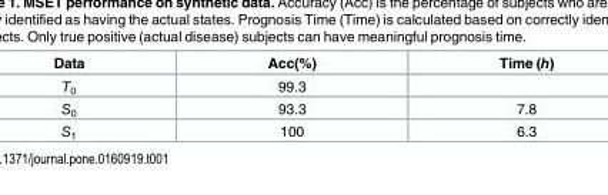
<table><thead><tr><td>Data</td><td>Acc(%)</td><td>Time (h)</td></tr></thead><tbody><tr><td>T<sub>0</sub></td><td>99.3</td><td></td></tr><tr><td>S<sub>0</sub></td><td>93.3</td><td>7.8</td></tr><tr><td>S<sub>1</sub></td><td>100</td><td>6.3</td></tr></tbody></table>